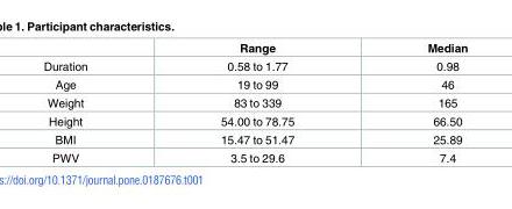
<table><thead><tr><td></td><td>Range</td><td>Median</td></tr></thead><tbody><tr><td>Duration</td><td>0.58 to 1.77</td><td>0.98</td></tr><tr><td>Age</td><td>19 to 99</td><td>46</td></tr><tr><td>Weight</td><td>83 to 339</td><td>165</td></tr><tr><td>Height</td><td>54.00 to 78.75</td><td>66.50</td></tr><tr><td>BMI</td><td>15.47 to 51.47</td><td>25.89</td></tr><tr><td>PWV</td><td>3.5 to 29.6</td><td>7.4</td></tr></tbody></table>